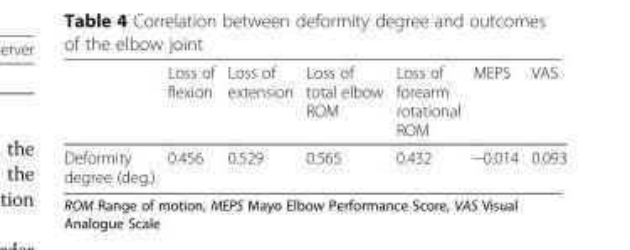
<table><thead><tr><td></td><td>Loss of flexion</td><td>Loss of extension</td><td>Loss of total elbow ROM</td><td>Loss of forearm rotational ROM</td><td>MEPS</td><td>VAS</td></tr></thead><tbody><tr><td>Deformity degree (deg.)</td><td>0.456</td><td>0.529</td><td>0.565</td><td>0.432</td><td>−0.014</td><td>0.093</td></tr></tbody></table>